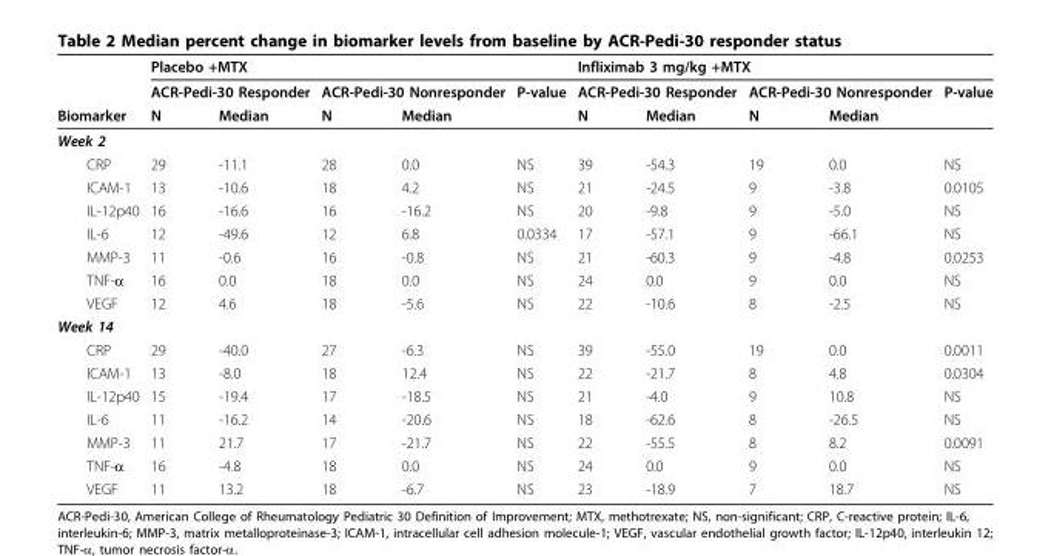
<table><thead><tr><td rowspan="3">Biomarker</td><td colspan="5">Placebo +MTX</td><td colspan="5">Infliximab 3 mg/kg +MTX</td></tr><tr><td colspan="2">ACR-Pedi-30 Responder</td><td colspan="2">ACR-Pedi-30 Nonresponder</td><td rowspan="2">P-value</td><td colspan="2">ACR-Pedi-30 Responder</td><td colspan="2">ACR-Pedi-30 Nonresponder</td><td rowspan="2">P-value</td></tr><tr><td>N</td><td>Median</td><td>N</td><td>Median</td><td>N</td><td>Median</td><td>N</td><td>Median</td></tr></thead><tbody><tr><td colspan="11">Week 2</td></tr><tr><td>CRP</td><td>29</td><td>-11.1</td><td>28</td><td>0.0</td><td>NS</td><td>39</td><td>-54.3</td><td>19</td><td>0.0</td><td>NS</td></tr><tr><td>ICAM-1</td><td>13</td><td>-10.6</td><td>18</td><td>4.2</td><td>NS</td><td>21</td><td>-24.5</td><td>9</td><td>-3.8</td><td>0.0105</td></tr><tr><td>IL-12p40</td><td>16</td><td>-16.6</td><td>16</td><td>-16.2</td><td>NS</td><td>20</td><td>-9.8</td><td>9</td><td>-5.0</td><td>NS</td></tr><tr><td>IL-6</td><td>12</td><td>-49.6</td><td>12</td><td>6.8</td><td>0.0334</td><td>17</td><td>-57.1</td><td>9</td><td>-66.1</td><td>NS</td></tr><tr><td>MMP-3</td><td>11</td><td>-0.6</td><td>16</td><td>-0.8</td><td>NS</td><td>21</td><td>-60.3</td><td>9</td><td>-4.8</td><td>0.0253</td></tr><tr><td>TNF-α</td><td>16</td><td>0.0</td><td>18</td><td>0.0</td><td>NS</td><td>24</td><td>0.0</td><td>9</td><td>0.0</td><td>NS</td></tr><tr><td>VEGF</td><td>12</td><td>4.6</td><td>18</td><td>-5.6</td><td>NS</td><td>22</td><td>-10.6</td><td>8</td><td>-2.5</td><td>NS</td></tr><tr><td colspan="11">Week 14</td></tr><tr><td>CRP</td><td>29</td><td>-40.0</td><td>27</td><td>-6.3</td><td>NS</td><td>39</td><td>-55.0</td><td>19</td><td>0.0</td><td>0.0011</td></tr><tr><td>ICAM-1</td><td>13</td><td>-8.0</td><td>18</td><td>12.4</td><td>NS</td><td>22</td><td>-21.7</td><td>8</td><td>4.8</td><td>0.0304</td></tr><tr><td>IL-12p40</td><td>15</td><td>-19.4</td><td>17</td><td>-18.5</td><td>NS</td><td>21</td><td>-4.0</td><td>9</td><td>10.8</td><td>NS</td></tr><tr><td>IL-6</td><td>11</td><td>-16.2</td><td>14</td><td>-20.6</td><td>NS</td><td>18</td><td>-62.6</td><td>8</td><td>-26.5</td><td>NS</td></tr><tr><td>MMP-3</td><td>11</td><td>21.7</td><td>17</td><td>-21.7</td><td>NS</td><td>22</td><td>-55.5</td><td>8</td><td>8.2</td><td>0.0091</td></tr><tr><td>TNF-α</td><td>16</td><td>-4.8</td><td>18</td><td>0.0</td><td>NS</td><td>24</td><td>0.0</td><td>9</td><td>0.0</td><td>NS</td></tr><tr><td>VEGF</td><td>11</td><td>13.2</td><td>18</td><td>-6.7</td><td>NS</td><td>23</td><td>-18.9</td><td>7</td><td>18.7</td><td>NS</td></tr></tbody></table>